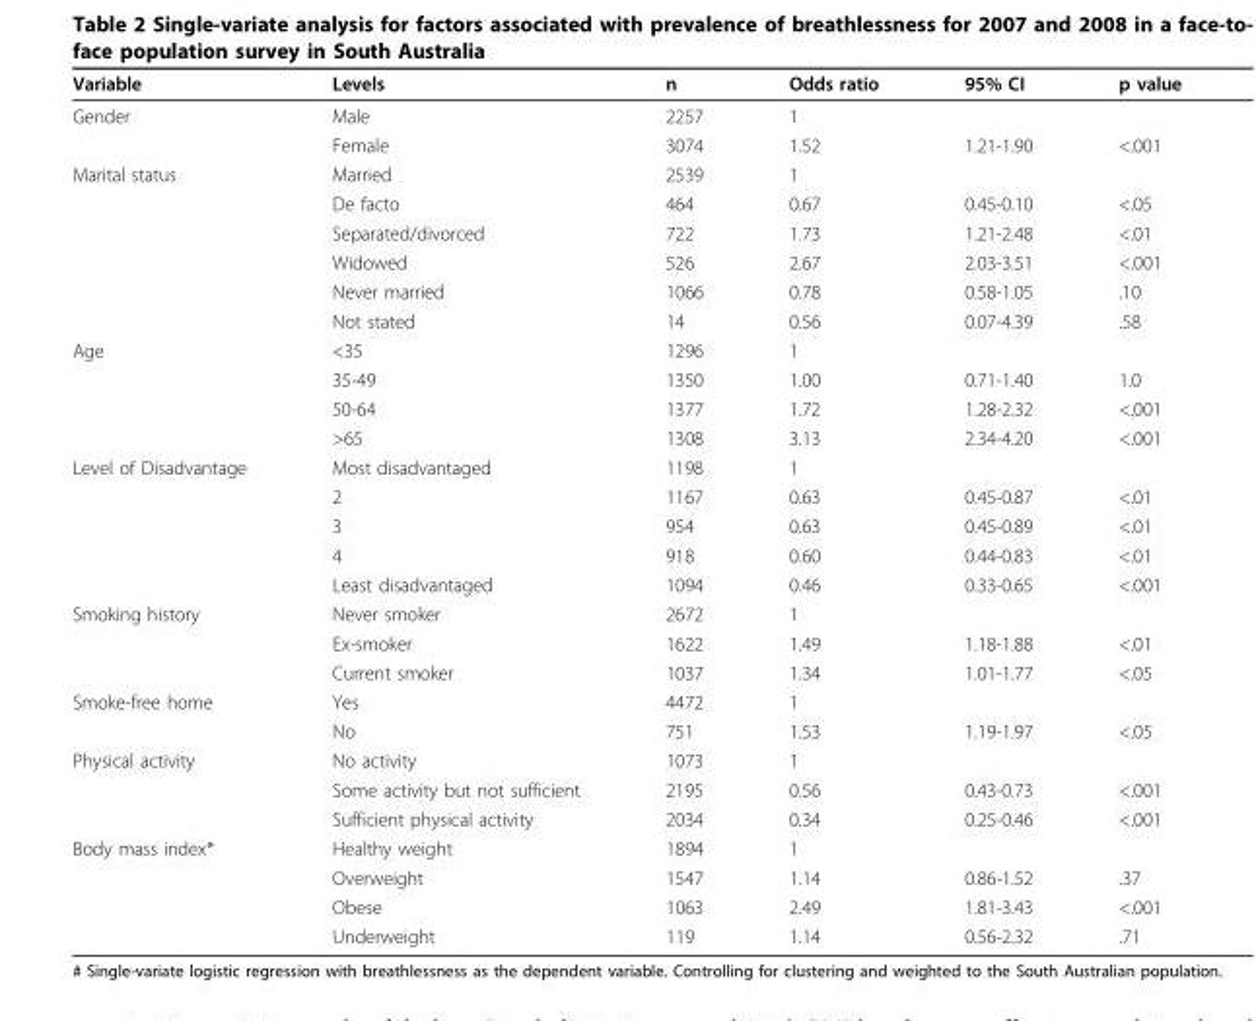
<table><thead><tr><td>Variable</td><td>Levels</td><td>n</td><td>Odds ratio</td><td>95% CI</td><td>p value</td></tr></thead><tbody><tr><td rowspan="2">Gender</td><td>Male</td><td>2257</td><td>1</td><td></td><td></td></tr><tr><td>Female</td><td>3074</td><td>1.52</td><td>1.21-1.90</td><td>&lt;.001</td></tr><tr><td rowspan="6">Marital status</td><td>Married</td><td>2539</td><td>1</td><td></td><td></td></tr><tr><td>De facto</td><td>464</td><td>0.67</td><td>0.45-0.10</td><td>&lt;.05</td></tr><tr><td>Separated/divorced</td><td>722</td><td>1.73</td><td>1.21-2.48</td><td>&lt;.01</td></tr><tr><td>Widowed</td><td>526</td><td>2.67</td><td>2.03-3.51</td><td>&lt;.001</td></tr><tr><td>Never married</td><td>1066</td><td>0.78</td><td>0.58-1.05</td><td>.10</td></tr><tr><td>Not stated</td><td>14</td><td>0.56</td><td>0.07-4.39</td><td>.58</td></tr><tr><td rowspan="4">Age</td><td>&lt;35</td><td>1296</td><td>1</td><td></td><td></td></tr><tr><td>35-49</td><td>1350</td><td>1.00</td><td>0.71-1.40</td><td>1.0</td></tr><tr><td>50-64</td><td>1377</td><td>1.72</td><td>1.28-2.32</td><td>&lt;.001</td></tr><tr><td>&gt;65</td><td>1308</td><td>3.13</td><td>2.34-4.20</td><td>&lt;.001</td></tr><tr><td rowspan="5">Level of Disadvantage</td><td>Most disadvantaged</td><td>1198</td><td>1</td><td></td><td></td></tr><tr><td>2</td><td>1167</td><td>0.63</td><td>0.45-0.87</td><td>&lt;.01</td></tr><tr><td>3</td><td>954</td><td>0.63</td><td>0.45-0.89</td><td>&lt;.01</td></tr><tr><td>4</td><td>918</td><td>0.60</td><td>0.44-0.83</td><td>&lt;.01</td></tr><tr><td>Least disadvantaged</td><td>1094</td><td>0.46</td><td>0.33-0.65</td><td>&lt;.001</td></tr><tr><td rowspan="3">Smoking history</td><td>Never smoker</td><td>2672</td><td>1</td><td></td><td></td></tr><tr><td>Ex-smoker</td><td>1622</td><td>1.49</td><td>1.18-1.88</td><td>&lt;.01</td></tr><tr><td>Current smoker</td><td>1037</td><td>1.34</td><td>1.01-1.77</td><td>&lt;.05</td></tr><tr><td rowspan="2">Smoke-free home</td><td>Yes</td><td>4472</td><td>1</td><td></td><td></td></tr><tr><td>No</td><td>751</td><td>1.53</td><td>1.19-1.97</td><td>&lt;.05</td></tr><tr><td rowspan="3">Physical activity</td><td>No activity</td><td>1073</td><td>1</td><td></td><td></td></tr><tr><td>Some activity but not sufficient</td><td>2195</td><td>0.56</td><td>0.43-0.73</td><td>&lt;.001</td></tr><tr><td>Sufficient physical activity</td><td>2034</td><td>0.34</td><td>0.25-0.46</td><td>&lt;.001</td></tr><tr><td rowspan="4">Body mass index*</td><td>Healthy weight</td><td>1894</td><td>1</td><td></td><td></td></tr><tr><td>Overweight</td><td>1547</td><td>1.14</td><td>0.86-1.52</td><td>.37</td></tr><tr><td>Obese</td><td>1063</td><td>2.49</td><td>1.81-3.43</td><td>&lt;.001</td></tr><tr><td>Underweight</td><td>119</td><td>1.14</td><td>0.56-2.32</td><td>.71</td></tr></tbody></table>